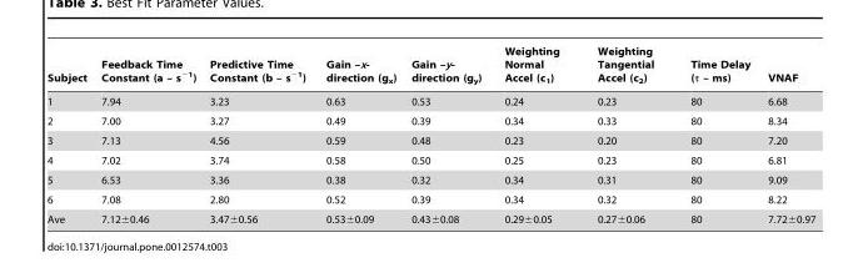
<table><thead><tr><td>Subject</td><td>Feedback Time Constant (a – s<sup>−1</sup>)</td><td>Predictive Time Constant (b – s<sup>−1</sup>)</td><td>Gain –x- direction (g<sub>x</sub>)</td><td>Gain –y- direction (g<sub>y</sub>)</td><td>Weighting Normal Accel (c<sub>1</sub>)</td><td>Weighting Tangential Accel (c<sub>2</sub>)</td><td>Time Delay (τ – ms)</td><td>VNAF</td></tr></thead><tbody><tr><td>1</td><td>7.94</td><td>3.23</td><td>0.63</td><td>0.53</td><td>0.24</td><td>0.23</td><td>80</td><td>6.68</td></tr><tr><td>2</td><td>7.00</td><td>3.27</td><td>0.49</td><td>0.39</td><td>0.34</td><td>0.33</td><td>80</td><td>8.34</td></tr><tr><td>3</td><td>7.13</td><td>4.56</td><td>0.59</td><td>0.48</td><td>0.23</td><td>0.20</td><td>80</td><td>7.20</td></tr><tr><td>4</td><td>7.02</td><td>3.74</td><td>0.58</td><td>0.50</td><td>0.25</td><td>0.23</td><td>80</td><td>6.81</td></tr><tr><td>5</td><td>6.53</td><td>3.36</td><td>0.38</td><td>0.32</td><td>0.34</td><td>0.31</td><td>80</td><td>9.09</td></tr><tr><td>6</td><td>7.08</td><td>2.80</td><td>0.52</td><td>0.39</td><td>0.34</td><td>0.32</td><td>80</td><td>8.22</td></tr><tr><td>Ave</td><td>7.12±0.46</td><td>3.47±0.56</td><td>0.53±0.09</td><td>0.43±0.08</td><td>0.29±0.05</td><td>0.27±0.06</td><td>80</td><td>7.72±0.97</td></tr></tbody></table>